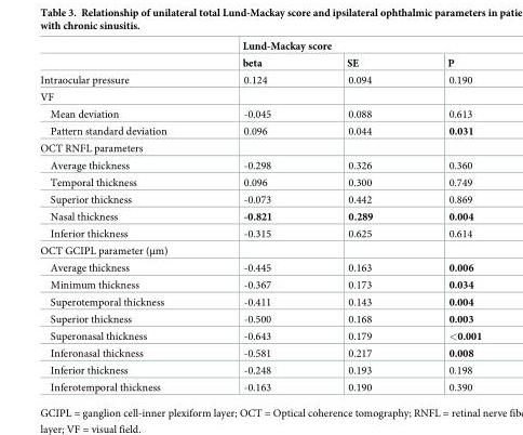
<table><thead><tr><td rowspan="2"></td><td colspan="3">Lund-Mackay score</td></tr><tr><td>beta</td><td>SE</td><td>P</td></tr></thead><tbody><tr><td>Intraocular pressure</td><td>0.124</td><td>0.094</td><td>0.190</td></tr><tr><td colspan="4">VF</td></tr><tr><td>Mean deviation</td><td>-0.045</td><td>0.088</td><td>0.613</td></tr><tr><td>Pattern standard deviation</td><td>0.096</td><td>0.044</td><td>0.031</td></tr><tr><td colspan="4">OCT RNFL parameters</td></tr><tr><td>Average thickness</td><td>-0.298</td><td>0.326</td><td>0.360</td></tr><tr><td>Temporal thickness</td><td>0.096</td><td>0.300</td><td>0.749</td></tr><tr><td>Superior thickness</td><td>-0.073</td><td>0.442</td><td>0.869</td></tr><tr><td>Nasal thickness</td><td>-0.821</td><td>0.289</td><td>0.004</td></tr><tr><td>Inferior thickness</td><td>-0.315</td><td>0.625</td><td>0.614</td></tr><tr><td colspan="4">OCT GCIPL parameter (μm)</td></tr><tr><td>Average thickness</td><td>-0.445</td><td>0.163</td><td>0.006</td></tr><tr><td>Minimum thickness</td><td>-0.367</td><td>0.173</td><td>0.034</td></tr><tr><td>Superotemporal thickness</td><td>-0.411</td><td>0.143</td><td>0.004</td></tr><tr><td>Superior thickness</td><td>-0.500</td><td>0.168</td><td>0.003</td></tr><tr><td>Superonasal thickness</td><td>-0.643</td><td>0.179</td><td>&lt;0.001</td></tr><tr><td>Inferonasal thickness</td><td>-0.581</td><td>0.217</td><td>0.008</td></tr><tr><td>Inferior thickness</td><td>-0.248</td><td>0.193</td><td>0.198</td></tr><tr><td>Inferotemporal thickness</td><td>-0.163</td><td>0.190</td><td>0.390</td></tr></tbody></table>